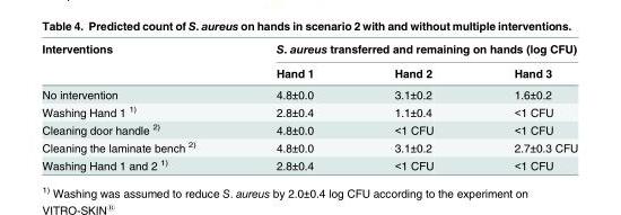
<table><thead><tr><td rowspan="2">Interventions</td><td colspan="3">S. aureus transferred and remaining on hands (log CFU)</td></tr><tr><td>Hand 1</td><td>Hand 2</td><td>Hand 3</td></tr></thead><tbody><tr><td>No intervention</td><td>4.8±0.0</td><td>3.1±0.2</td><td>1.6±0.2</td></tr><tr><td>Washing Hand 1 <sup>1)</sup></td><td>2.8±0.4</td><td>1.1±0.4</td><td>&lt;1 CFU</td></tr><tr><td>Cleaning door handle <sup>2)</sup></td><td>4.8±0.0</td><td>&lt;1 CFU</td><td>&lt;1 CFU</td></tr><tr><td>Cleaning the laminate bench <sup>2)</sup></td><td>4.8±0.0</td><td>3.1±0.2</td><td>2.7±0.3 CFU</td></tr><tr><td>Washing Hand 1 and 2 <sup>1)</sup></td><td>2.8±0.4</td><td>&lt;1 CFU</td><td>&lt;1 CFU</td></tr></tbody></table>